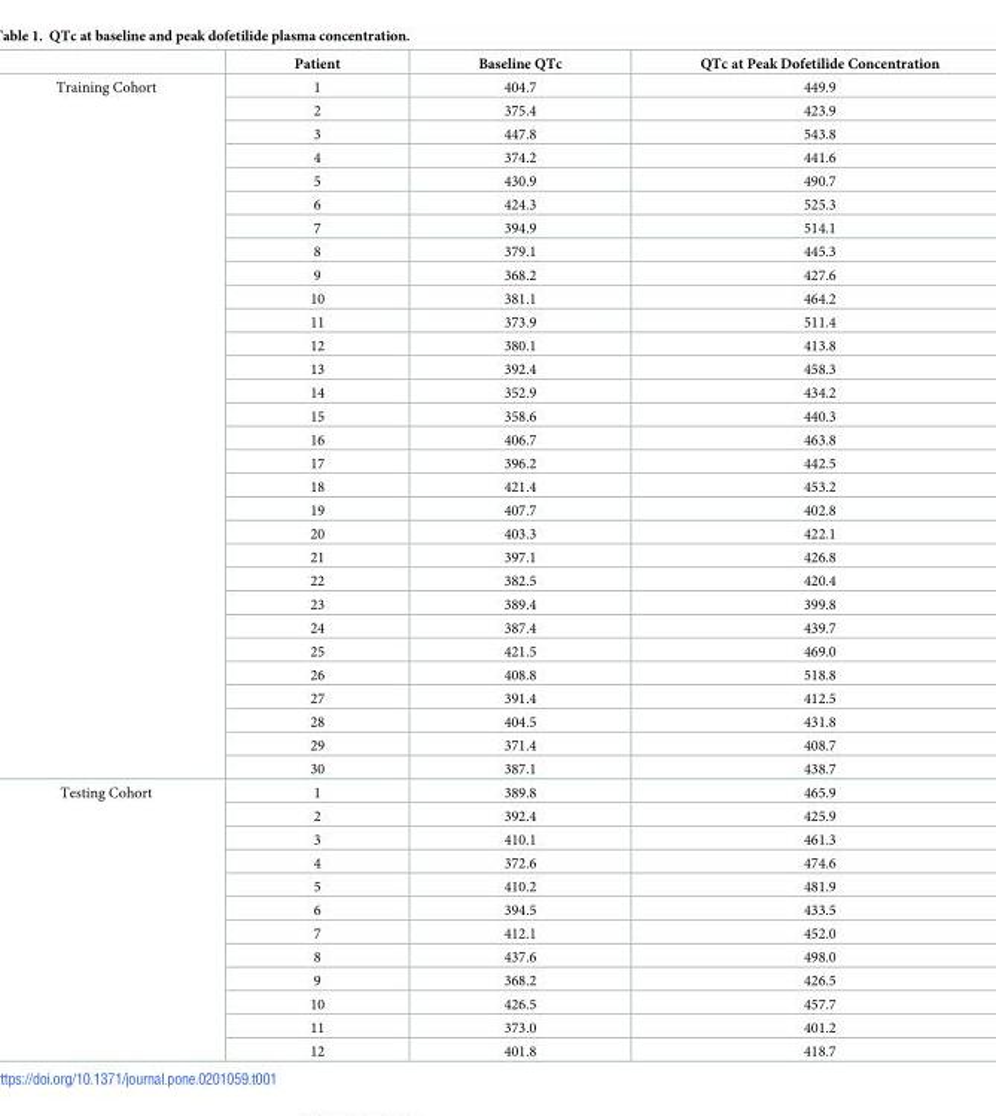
<table><thead><tr><td></td><td>Patient</td><td>Baseline QTc</td><td>QTc at Peak Dofetilide Concentration</td></tr></thead><tbody><tr><td rowspan="30">Training Cohort</td><td>1</td><td>404.7</td><td>449.9</td></tr><tr><td>2</td><td>375.4</td><td>423.9</td></tr><tr><td>3</td><td>447.8</td><td>543.8</td></tr><tr><td>4</td><td>374.2</td><td>441.6</td></tr><tr><td>5</td><td>430.9</td><td>490.7</td></tr><tr><td>6</td><td>424.3</td><td>525.3</td></tr><tr><td>7</td><td>394.9</td><td>514.1</td></tr><tr><td>8</td><td>379.1</td><td>445.3</td></tr><tr><td>9</td><td>368.2</td><td>427.6</td></tr><tr><td>10</td><td>381.1</td><td>464.2</td></tr><tr><td>11</td><td>373.9</td><td>511.4</td></tr><tr><td>12</td><td>380.1</td><td>413.8</td></tr><tr><td>13</td><td>392.4</td><td>458.3</td></tr><tr><td>14</td><td>352.9</td><td>434.2</td></tr><tr><td>15</td><td>358.6</td><td>440.3</td></tr><tr><td>16</td><td>406.7</td><td>463.8</td></tr><tr><td>17</td><td>396.2</td><td>442.5</td></tr><tr><td>18</td><td>421.4</td><td>453.2</td></tr><tr><td>19</td><td>407.7</td><td>402.8</td></tr><tr><td>20</td><td>403.3</td><td>422.1</td></tr><tr><td>21</td><td>397.1</td><td>426.8</td></tr><tr><td>22</td><td>382.5</td><td>420.4</td></tr><tr><td>23</td><td>389.4</td><td>399.8</td></tr><tr><td>24</td><td>387.4</td><td>439.7</td></tr><tr><td>25</td><td>421.5</td><td>469.0</td></tr><tr><td>26</td><td>408.8</td><td>518.8</td></tr><tr><td>27</td><td>391.4</td><td>412.5</td></tr><tr><td>28</td><td>404.5</td><td>431.8</td></tr><tr><td>29</td><td>371.4</td><td>408.7</td></tr><tr><td>30</td><td>387.1</td><td>438.7</td></tr><tr><td rowspan="12">Testing Cohort</td><td>1</td><td>389.8</td><td>465.9</td></tr><tr><td>2</td><td>392.4</td><td>425.9</td></tr><tr><td>3</td><td>410.1</td><td>461.3</td></tr><tr><td>4</td><td>372.6</td><td>474.6</td></tr><tr><td>5</td><td>410.2</td><td>481.9</td></tr><tr><td>6</td><td>394.5</td><td>433.5</td></tr><tr><td>7</td><td>412.1</td><td>452.0</td></tr><tr><td>8</td><td>437.6</td><td>498.0</td></tr><tr><td>9</td><td>368.2</td><td>426.5</td></tr><tr><td>10</td><td>426.5</td><td>457.7</td></tr><tr><td>11</td><td>373.0</td><td>401.2</td></tr><tr><td>12</td><td>401.8</td><td>418.7</td></tr></tbody></table>